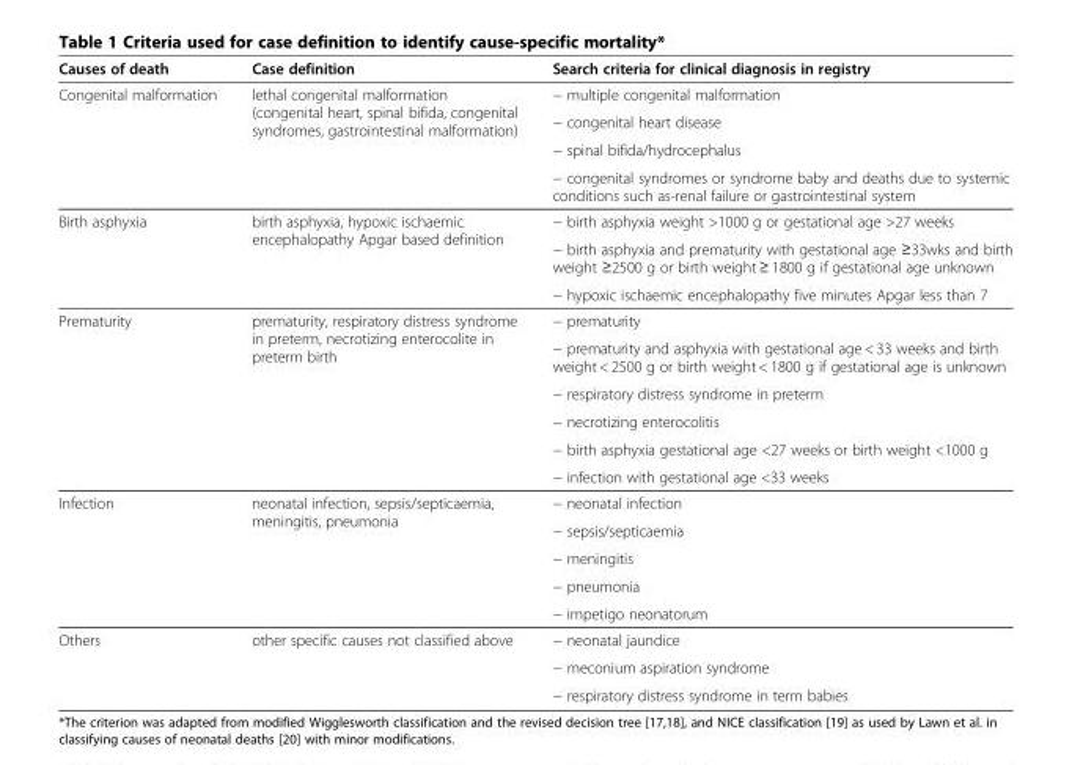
<table><thead><tr><td>Causes of death</td><td>Case definition</td><td>Search criteria for clinical diagnosis in registry</td></tr></thead><tbody><tr><td rowspan="4">Congenital malformation</td><td rowspan="4">lethal congenital malformation (congenital heart, spinal bifida, congenital syndromes, gastrointestinal malformation)</td><td>− multiple congenital malformation</td></tr><tr><td>− congenital heart disease</td></tr><tr><td>− spinal bifida/hydrocephalus</td></tr><tr><td>− congenital syndromes or syndrome baby and deaths due to systemic conditions such as-renal failure or gastrointestinal system</td></tr><tr><td rowspan="3">Birth asphyxia</td><td rowspan="3">birth asphyxia, hypoxic ischaemic encephalopathy Apgar based definition</td><td>− birth asphyxia weight &gt;1000 g or gestational age &gt;27 weeks</td></tr><tr><td>− birth asphyxia and prematurity with gestational age ≥33wks and birth weight ≥2500 g or birth weight ≥ 1800 g if gestational age unknown</td></tr><tr><td>− hypoxic ischaemic encephalopathy five minutes Apgar less than 7</td></tr><tr><td rowspan="6">Prematurity</td><td rowspan="6">prematurity, respiratory distress syndrome in preterm, necrotizing enterocolite in preterm birth</td><td>− prematurity</td></tr><tr><td>− prematurity and asphyxia with gestational age &lt; 33 weeks and birth weight &lt; 2500 g or birth weight &lt; 1800 g if gestational age is unknown</td></tr><tr><td>− respiratory distress syndrome in preterm</td></tr><tr><td>− necrotizing enterocolitis</td></tr><tr><td>− birth asphyxia gestational age &lt;27 weeks or birth weight &lt;1000 g</td></tr><tr><td>− infection with gestational age &lt;33 weeks</td></tr><tr><td rowspan="5">Infection</td><td rowspan="5">neonatal infection, sepsis/septicaemia, meningitis, pneumonia</td><td>− neonatal infection</td></tr><tr><td>− sepsis/septicaemia</td></tr><tr><td>− meningitis</td></tr><tr><td>− pneumonia</td></tr><tr><td>− impetigo neonatorum</td></tr><tr><td rowspan="3">Others</td><td rowspan="3">other specific causes not classified above</td><td>− neonatal jaundice</td></tr><tr><td>− meconium aspiration syndrome</td></tr><tr><td>− respiratory distress syndrome in term babies</td></tr></tbody></table>